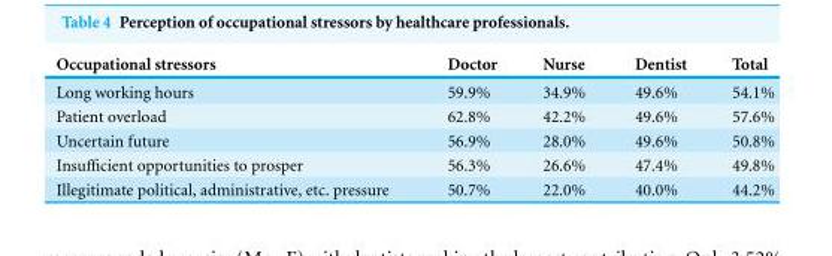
<table><thead><tr><td>Occupational stressors</td><td>Doctor</td><td>Nurse</td><td>Dentist</td><td>Total</td></tr></thead><tbody><tr><td>Long working hours</td><td>59.9%</td><td>34.9%</td><td>49.6%</td><td>54.1%</td></tr><tr><td>Patient overload</td><td>62.8%</td><td>42.2%</td><td>49.6%</td><td>57.6%</td></tr><tr><td>Uncertain future</td><td>56.9%</td><td>28.0%</td><td>49.6%</td><td>50.8%</td></tr><tr><td>Insufficient opportunities to prosper</td><td>56.3%</td><td>26.6%</td><td>47.4%</td><td>49.8%</td></tr><tr><td>Illegitimate political, administrative, etc. pressure</td><td>50.7%</td><td>22.0%</td><td>40.0%</td><td>44.2%</td></tr></tbody></table>